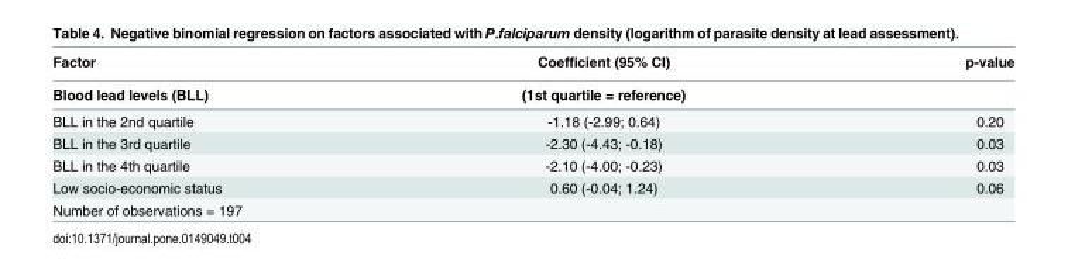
<table><thead><tr><td rowspan="2">Factor Blood lead levels (BLL)</td><td rowspan="2">Coefficient (95% CI) (1st quartile = reference)</td><td rowspan="2">p-value</td></tr><tr></tr></thead><tbody><tr><td>BLL in the 2nd quartile</td><td>-1.18 (-2.99; 0.64)</td><td>0.20</td></tr><tr><td>BLL in the 3rd quartile</td><td>-2.30 (-4.43; -0.18)</td><td>0.03</td></tr><tr><td>BLL in the 4th quartile</td><td>-2.10 (-4.00; -0.23)</td><td>0.03</td></tr><tr><td>Low socio-economic status</td><td>0.60 (-0.04; 1.24)</td><td>0.06</td></tr><tr><td>Number of observations = 197</td><td></td><td></td></tr></tbody></table>